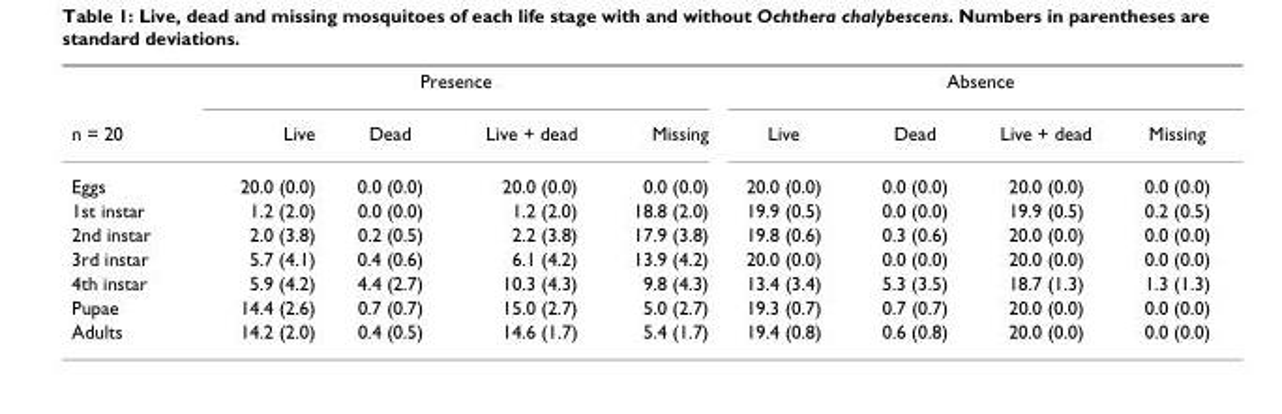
<table><thead><tr><td rowspan="2">n = 20</td><td colspan="4">Presence</td><td colspan="4">Absence</td></tr><tr><td>Live</td><td>Dead</td><td>Live + dead</td><td>Missing</td><td>Live</td><td>Dead</td><td>Live + dead</td><td>Missing</td></tr></thead><tbody><tr><td>Eggs</td><td>20.0 (0.0)</td><td>0.0 (0.0)</td><td>20.0 (0.0)</td><td>0.0 (0.0)</td><td>20.0 (0.0)</td><td>0.0 (0.0)</td><td>20.0 (0.0)</td><td>0.0 (0.0)</td></tr><tr><td>1st instar</td><td>1.2 (2.0)</td><td>0.0 (0.0)</td><td>1.2 (2.0)</td><td>18.8 (2.0)</td><td>19.9 (0.5)</td><td>0.0 (0.0)</td><td>19.9 (0.5)</td><td>0.2 (0.5)</td></tr><tr><td>2nd instar</td><td>2.0 (3.8)</td><td>0.2 (0.5)</td><td>2.2 (3.8)</td><td>17.9 (3.8)</td><td>19.8 (0.6)</td><td>0.3 (0.6)</td><td>20.0 (0.0)</td><td>0.0 (0.0)</td></tr><tr><td>3rd instar</td><td>5.7 (4.1)</td><td>0.4 (0.6)</td><td>6.1 (4.2)</td><td>13.9 (4.2)</td><td>20.0 (0.0)</td><td>0.0 (0.0)</td><td>20.0 (0.0)</td><td>0.0 (0.0)</td></tr><tr><td>4th instar</td><td>5.9 (4.2)</td><td>4.4 (2.7)</td><td>10.3 (4.3)</td><td>9.8 (4.3)</td><td>13.4 (3.4)</td><td>5.3 (3.5)</td><td>18.7 (1.3)</td><td>1.3 (1.3)</td></tr><tr><td>Pupae</td><td>14.4 (2.6)</td><td>0.7 (0.7)</td><td>15.0 (2.7)</td><td>5.0 (2.7)</td><td>19.3 (0.7)</td><td>0.7 (0.7)</td><td>20.0 (0.0)</td><td>0.0 (0.0)</td></tr><tr><td>Adults</td><td>14.2 (2.0)</td><td>0.4 (0.5)</td><td>14.6 (1.7)</td><td>5.4 (1.7)</td><td>19.4 (0.8)</td><td>0.6 (0.8)</td><td>20.0 (0.0)</td><td>0.0 (0.0)</td></tr></tbody></table>